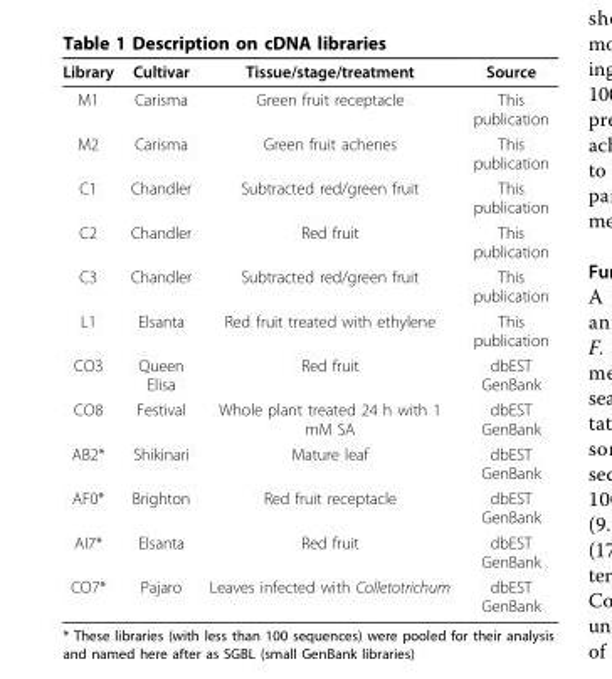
<table><thead><tr><td>Library</td><td>Cultivar</td><td>Tissue/stage/treatment</td><td>Source</td></tr></thead><tbody><tr><td>M1</td><td>Carisma</td><td>Green fruit receptacle</td><td>This publication</td></tr><tr><td>M2</td><td>Carisma</td><td>Green fruit achenes</td><td>This publication</td></tr><tr><td>C1</td><td>Chandler</td><td>Subtracted red/green fruit</td><td>This publication</td></tr><tr><td>C2</td><td>Chandler</td><td>Red fruit</td><td>This publication</td></tr><tr><td>C3</td><td>Chandler</td><td>Subtracted red/green fruit</td><td>This publication</td></tr><tr><td>L1</td><td>Elsanta</td><td>Red fruit treated with ethylene</td><td>This publication</td></tr><tr><td>CO3</td><td>Queen Elisa</td><td>Red fruit</td><td>dbEST GenBank</td></tr><tr><td>CO8</td><td>Festival</td><td>Whole plant treated 24 h with 1 mM SA</td><td>dbEST GenBank</td></tr><tr><td>AB2*</td><td>Shikinari</td><td>Mature leaf</td><td>dbEST GenBank</td></tr><tr><td>AF0*</td><td>Brighton</td><td>Red fruit receptacle</td><td>dbEST GenBank</td></tr><tr><td>AI7*</td><td>Elsanta</td><td>Red fruit</td><td>dbEST GenBank</td></tr><tr><td>CO7*</td><td>Pajaro</td><td>Leaves infected with Colletotrichum</td><td>dbEST GenBank</td></tr></tbody></table>